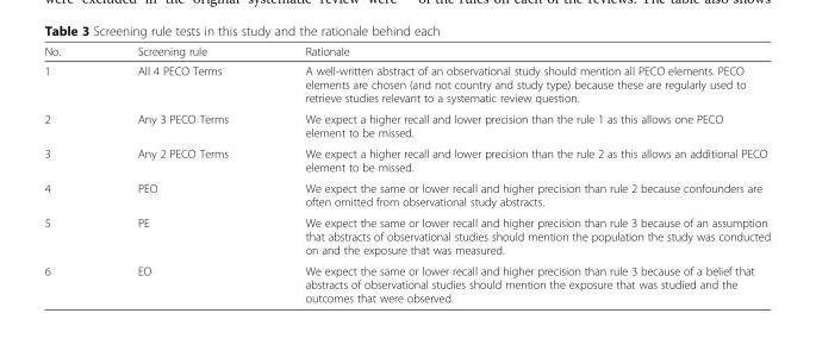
<table><thead><tr><td>No.</td><td>Screening rule</td><td>Rationale</td></tr></thead><tbody><tr><td>1</td><td>All 4 PECO Terms</td><td>A well-written abstract of an observational study should mention all PECO elements. PECO elements are chosen (and not country and study type) because these are regularly used to retrieve studies relevant to a systematic review question.</td></tr><tr><td>2</td><td>Any 3 PECO Terms</td><td>We expect a higher recall and lower precision than the rule 1 as this allows one PECO element to be missed.</td></tr><tr><td>3</td><td>Any 2 PECO Terms</td><td>We expect a higher recall and lower precision than the rule 2 as this allows an additional PECO element to be missed.</td></tr><tr><td>4</td><td>PEO</td><td>We expect the same or lower recall and higher precision than rule 2 because confounders are often omitted from observational study abstracts.</td></tr><tr><td>5</td><td>PE</td><td>We expect the same or lower recall and higher precision than rule 3 because of an assumption that abstracts of observational studies should mention the population the study was conducted on and the exposure that was measured.</td></tr><tr><td>6</td><td>EO</td><td>We expect the same or lower recall and higher precision than rule 3 because of a belief that abstracts of observational studies should mention the exposure that was studied and the outcomes that were observed.</td></tr></tbody></table>